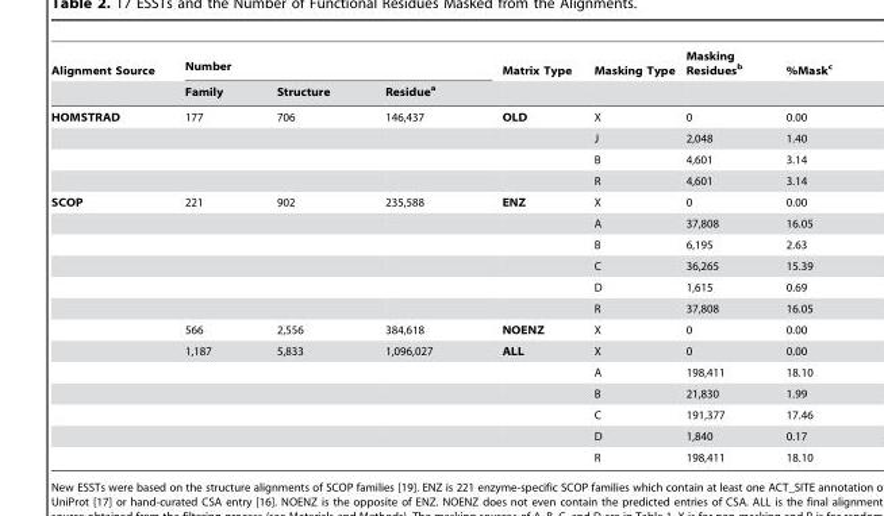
<table><thead><tr><td rowspan="2">Alignment Source</td><td colspan="3">Number</td><td rowspan="2">Matrix Type</td><td rowspan="2">Masking Type</td><td rowspan="2">Masking Residues<sup>b</sup></td><td rowspan="2">%Mask<sup>c</sup></td></tr><tr><td>Family</td><td>Structure</td><td>Residue<sup>a</sup></td></tr></thead><tbody><tr><td rowspan="4">HOMSTRAD</td><td>177</td><td>706</td><td>146,437</td><td>OLD</td><td>X</td><td>0</td><td>0.00</td></tr><tr><td></td><td></td><td></td><td></td><td>J</td><td>2,048</td><td>1.40</td></tr><tr><td></td><td></td><td></td><td></td><td>B</td><td>4,601</td><td>3.14</td></tr><tr><td></td><td></td><td></td><td></td><td>R</td><td>4,601</td><td>3.14</td></tr><tr><td rowspan="13">SCOP</td><td>221</td><td>902</td><td>235,588</td><td>ENZ</td><td>X</td><td>0</td><td>0.00</td></tr><tr><td></td><td></td><td></td><td></td><td>A</td><td>37,808</td><td>16.05</td></tr><tr><td></td><td></td><td></td><td></td><td>B</td><td>6,195</td><td>2.63</td></tr><tr><td></td><td></td><td></td><td></td><td>C</td><td>36,265</td><td>15.39</td></tr><tr><td></td><td></td><td></td><td></td><td>D</td><td>1,615</td><td>0.69</td></tr><tr><td></td><td></td><td></td><td></td><td>R</td><td>37,808</td><td>16.05</td></tr><tr><td>566</td><td>2,556</td><td>384,618</td><td>NOENZ</td><td>X</td><td>0</td><td>0.00</td></tr><tr><td>1,187</td><td>5,833</td><td>1,096,027</td><td>ALL</td><td>X</td><td>0</td><td>0.00</td></tr><tr><td></td><td></td><td></td><td></td><td>A</td><td>198,411</td><td>18.10</td></tr><tr><td></td><td></td><td></td><td></td><td>B</td><td>21,830</td><td>1.99</td></tr><tr><td></td><td></td><td></td><td></td><td>C</td><td>191,377</td><td>17.46</td></tr><tr><td></td><td></td><td></td><td></td><td>D</td><td>1,840</td><td>0.17</td></tr><tr><td></td><td></td><td></td><td></td><td>R</td><td>198,411</td><td>18.10</td></tr></tbody></table>